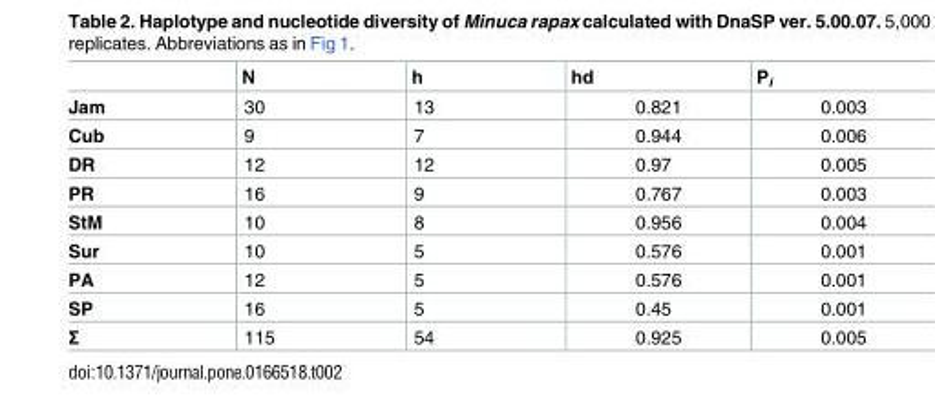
<table><thead><tr><td></td><td>N</td><td>h</td><td>hd</td><td>P<sub>i</sub></td></tr></thead><tbody><tr><td>Jam</td><td>30</td><td>13</td><td>0.821</td><td>0.003</td></tr><tr><td>Cub</td><td>9</td><td>7</td><td>0.944</td><td>0.006</td></tr><tr><td>DR</td><td>12</td><td>12</td><td>0.97</td><td>0.005</td></tr><tr><td>PR</td><td>16</td><td>9</td><td>0.767</td><td>0.003</td></tr><tr><td>StM</td><td>10</td><td>8</td><td>0.956</td><td>0.004</td></tr><tr><td>Sur</td><td>10</td><td>5</td><td>0.576</td><td>0.001</td></tr><tr><td>PA</td><td>12</td><td>5</td><td>0.576</td><td>0.001</td></tr><tr><td>SP</td><td>16</td><td>5</td><td>0.45</td><td>0.001</td></tr><tr><td>Σ</td><td>115</td><td>54</td><td>0.925</td><td>0.005</td></tr></tbody></table>